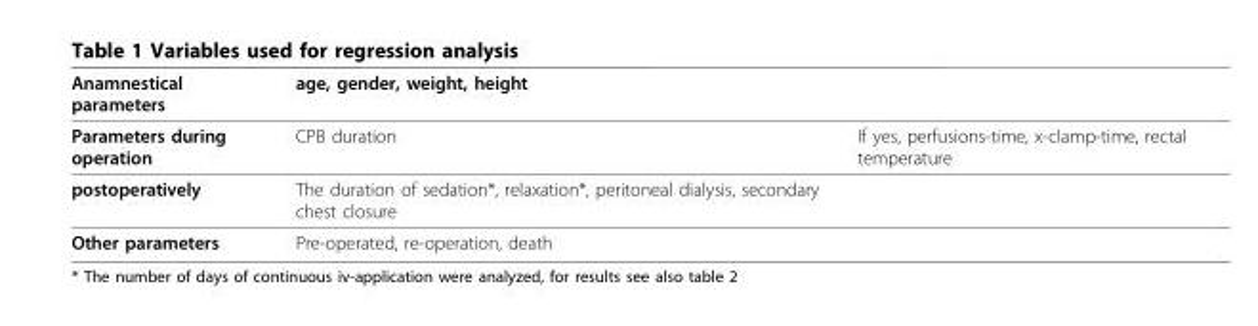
<table><thead><tr><td>Anamnestical parameters</td><td>age, gender, weight, height</td><td></td></tr></thead><tbody><tr><td>Parameters during operation</td><td>CPB duration</td><td>If yes, perfusions-time, x-clamp-time, rectal temperature</td></tr><tr><td>postoperatively</td><td>The duration of sedation*, relaxation*, peritoneal dialysis, secondary chest closure</td><td></td></tr><tr><td>Other parameters</td><td>Pre-operated, re-operation, death</td><td></td></tr></tbody></table>